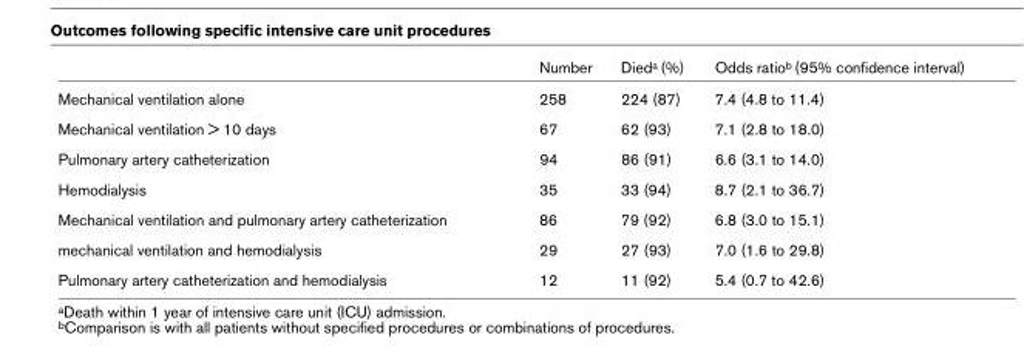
<table><thead><tr><td></td><td>Number</td><td>Died<sup>a</sup> (%)</td><td>Odds ratio<sup>b</sup> (95% confidence interval)</td></tr></thead><tbody><tr><td>Mechanical ventilation alone</td><td>258</td><td>224 (87)</td><td>7.4 (4.8 to 11.4)</td></tr><tr><td>Mechanical ventilation &gt; 10 days</td><td>67</td><td>62 (93)</td><td>7.1 (2.8 to 18.0)</td></tr><tr><td>Pulmonary artery catheterization</td><td>94</td><td>86 (91)</td><td>6.6 (3.1 to 14.0)</td></tr><tr><td>Hemodialysis</td><td>35</td><td>33 (94)</td><td>8.7 (2.1 to 36.7)</td></tr><tr><td>Mechanical ventilation and pulmonary artery catheterization</td><td>86</td><td>79 (92)</td><td>6.8 (3.0 to 15.1)</td></tr><tr><td>mechanical ventilation and hemodialysis</td><td>29</td><td>27 (93)</td><td>7.0 (1.6 to 29.8)</td></tr><tr><td>Pulmonary artery catheterization and hemodialysis</td><td>12</td><td>11 (92)</td><td>5.4 (0.7 to 42.6)</td></tr></tbody></table>